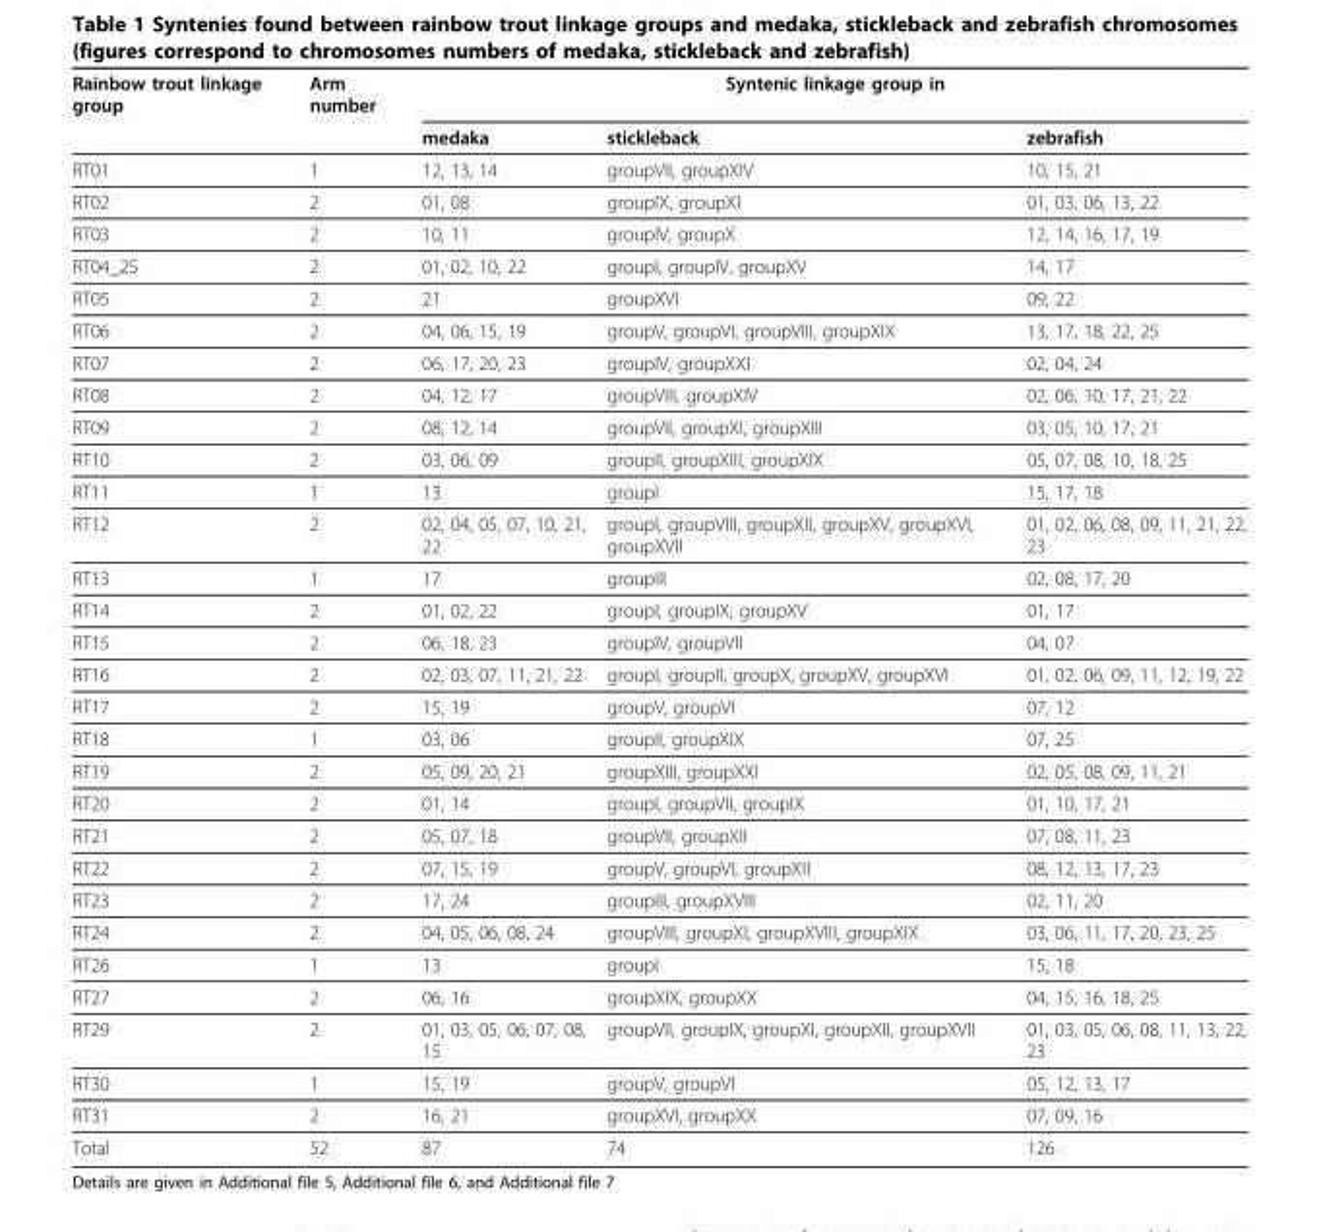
<table><thead><tr><td rowspan="2">Rainbow trout linkage group</td><td rowspan="2">Arm number</td><td colspan="3">Syntenic linkage group in</td></tr><tr><td>medaka</td><td>stickleback</td><td>zebrafish</td></tr></thead><tbody><tr><td>RT01</td><td>1</td><td>12, 13, 14</td><td>groupVII, groupXIV</td><td>10, 15, 21</td></tr><tr><td>RT02</td><td>2</td><td>01, 08</td><td>groupIX, groupXI</td><td>01, 03, 06, 13, 22</td></tr><tr><td>RT03</td><td>2</td><td>10, 11</td><td>groupIV, groupX</td><td>12, 14, 16, 17, 19</td></tr><tr><td>RT04_25</td><td>2</td><td>01, 02, 10, 22</td><td>groupI, groupIV, groupXV</td><td>14, 17</td></tr><tr><td>RT05</td><td>2</td><td>21</td><td>groupXVI</td><td>09, 22</td></tr><tr><td>RT06</td><td>2</td><td>04, 06, 15, 19</td><td>groupV, groupVI, groupVIII, groupXIX</td><td>13, 17, 18, 22, 25</td></tr><tr><td>RT07</td><td>2</td><td>06, 17, 20, 23</td><td>groupIV, groupXXI</td><td>02, 04, 24</td></tr><tr><td>RT08</td><td>2</td><td>04, 12, 17</td><td>groupVIII, groupXIV</td><td>02, 06, 10, 17, 21, 22</td></tr><tr><td>RT09</td><td>2</td><td>08, 12, 14</td><td>groupVII, groupXI, groupXIII</td><td>03, 05, 10, 17, 21</td></tr><tr><td>RT10</td><td>2</td><td>03, 06, 09</td><td>groupII, groupXIII, groupXIX</td><td>05, 07, 08, 10, 18, 25</td></tr><tr><td>RT11</td><td>1</td><td>13</td><td>groupI</td><td>15, 17, 18</td></tr><tr><td>RT12</td><td>2</td><td>02, 04, 05, 07, 10, 21, 22</td><td>groupI, groupVIII, groupXII, groupXV, groupXVI, groupXVII</td><td>01, 02, 06, 08, 09, 11, 21, 22, 23</td></tr><tr><td>RT13</td><td>1</td><td>17</td><td>groupIII</td><td>02, 08, 17, 20</td></tr><tr><td>RT14</td><td>2</td><td>01, 02, 22</td><td>groupI, groupIX, groupXV</td><td>01, 17</td></tr><tr><td>RT15</td><td>2</td><td>06, 18, 23</td><td>groupIV, groupVII</td><td>04, 07</td></tr><tr><td>RT16</td><td>2</td><td>02, 03, 07, 11, 21, 22</td><td>groupI, groupII, groupX, groupXV, groupXVI</td><td>01, 02, 06, 09, 11, 12, 19, 22</td></tr><tr><td>RT17</td><td>2</td><td>15, 19</td><td>groupV, groupVI</td><td>07, 12</td></tr><tr><td>RT18</td><td>1</td><td>03, 06</td><td>groupII, groupXIX</td><td>07, 25</td></tr><tr><td>RT19</td><td>2</td><td>05, 09, 20, 21</td><td>groupXIII, groupXXI</td><td>02, 05, 08, 09, 11, 21</td></tr><tr><td>RT20</td><td>2</td><td>01, 14</td><td>groupI, groupVII, groupIX</td><td>01, 10, 17, 21</td></tr><tr><td>RT21</td><td>2</td><td>05, 07, 18</td><td>groupVII, groupXII</td><td>07, 08, 11, 23</td></tr><tr><td>RT22</td><td>2</td><td>07, 15, 19</td><td>groupV, groupVI, groupXII</td><td>08, 12, 13, 17, 23</td></tr><tr><td>RT23</td><td>2</td><td>17, 24</td><td>groupIII, groupXVIII</td><td>02, 11, 20</td></tr><tr><td>RT24</td><td>2</td><td>04, 05, 06, 08, 24</td><td>groupVIII, groupXI, groupXVIII, groupXIX</td><td>03, 06, 11, 17, 20, 23, 25</td></tr><tr><td>RT26</td><td>1</td><td>13</td><td>groupI</td><td>15, 18</td></tr><tr><td>RT27</td><td>2</td><td>06, 16</td><td>groupXIX, groupXX</td><td>04, 15, 16, 18, 25</td></tr><tr><td>RT29</td><td>2</td><td>01, 03, 05, 06, 07, 08, 15</td><td>groupVII, groupIX, groupXI, groupXII, groupXVII</td><td>01, 03, 05, 06, 08, 11, 13, 22, 23</td></tr><tr><td>RT30</td><td>1</td><td>15, 19</td><td>groupV, groupVI</td><td>05, 12, 13, 17</td></tr><tr><td>RT31</td><td>2</td><td>16, 21</td><td>groupXVI, groupXX</td><td>07, 09, 16</td></tr><tr><td>Total</td><td>52</td><td>87</td><td>74</td><td>126</td></tr></tbody></table>